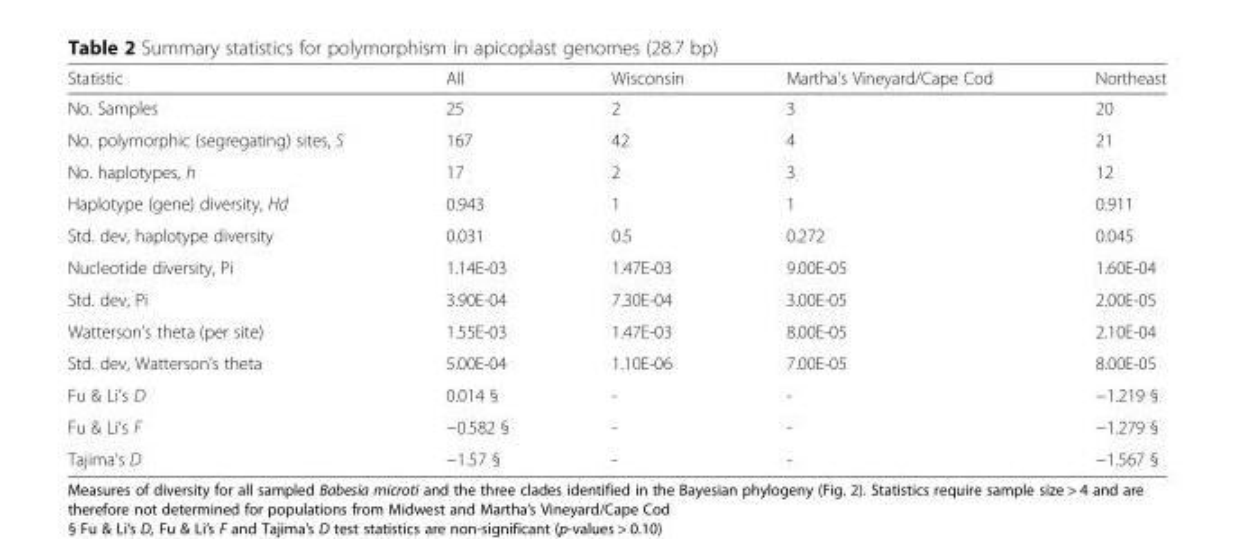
<table><thead><tr><td>Statistic</td><td>All</td><td>Wisconsin</td><td>Martha’s Vineyard/Cape Cod</td><td>Northeast</td></tr></thead><tbody><tr><td>No. Samples</td><td>25</td><td>2</td><td>3</td><td>20</td></tr><tr><td>No. polymorphic (segregating) sites, S</td><td>167</td><td>42</td><td>4</td><td>21</td></tr><tr><td>No. haplotypes, h</td><td>17</td><td>2</td><td>3</td><td>12</td></tr><tr><td>Haplotype (gene) diversity, Hd</td><td>0.943</td><td>1</td><td>1</td><td>0.911</td></tr><tr><td>Std. dev, haplotype diversity</td><td>0.031</td><td>0.5</td><td>0.272</td><td>0.045</td></tr><tr><td>Nucleotide diversity, Pi</td><td>1.14E-03</td><td>1.47E-03</td><td>9.00E-05</td><td>1.60E-04</td></tr><tr><td>Std. dev, Pi</td><td>3.90E-04</td><td>7.30E-04</td><td>3.00E-05</td><td>2.00E-05</td></tr><tr><td>Watterson’s theta (per site)</td><td>1.55E-03</td><td>1.47E-03</td><td>8.00E-05</td><td>2.10E-04</td></tr><tr><td>Std. dev, Watterson’s theta</td><td>5.00E-04</td><td>1.10E-06</td><td>7.00E-05</td><td>8.00E-05</td></tr><tr><td>Fu &amp; Li’s D</td><td>0.014 §</td><td>-</td><td>-</td><td>−1.219 §</td></tr><tr><td>Fu &amp; Li’s F</td><td>−0.582 §</td><td>-</td><td>-</td><td>−1.279 §</td></tr><tr><td>Tajima’s D</td><td>−1.57 §</td><td>-</td><td>-</td><td>−1.567 §</td></tr></tbody></table>